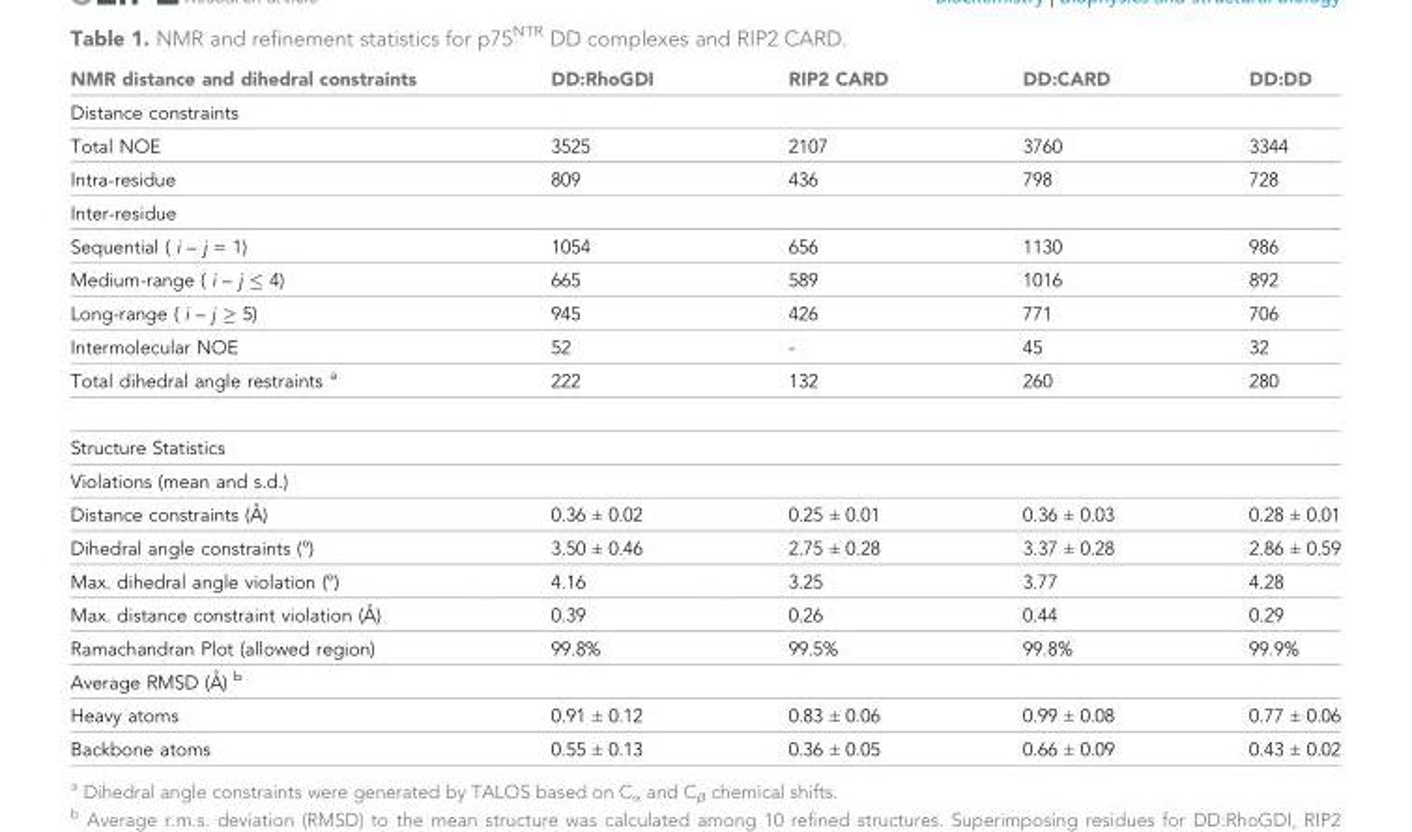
<table><thead><tr><td>NMR distance and dihedral constraints</td><td>DD:RhoGDI</td><td>RIP2 CARD</td><td>DD:CARD</td><td>DD:DD</td></tr></thead><tbody><tr><td colspan="5">Distance constraints</td></tr><tr><td>Total NOE</td><td>3525</td><td>2107</td><td>3760</td><td>3344</td></tr><tr><td>Intra-residue</td><td>809</td><td>436</td><td>798</td><td>728</td></tr><tr><td colspan="5">Inter-residue</td></tr><tr><td>Sequential ( i – j = 1)</td><td>1054</td><td>656</td><td>1130</td><td>986</td></tr><tr><td>Medium-range ( i – j ≤ 4)</td><td>665</td><td>589</td><td>1016</td><td>892</td></tr><tr><td>Long-range ( i – j ≥ 5)</td><td>945</td><td>426</td><td>771</td><td>706</td></tr><tr><td>Intermolecular NOE</td><td>52</td><td>-</td><td>45</td><td>32</td></tr><tr><td>Total dihedral angle restraints <sup>a</sup></td><td>222</td><td>132</td><td>260</td><td>280</td></tr><tr><td colspan="5">Structure Statistics</td></tr><tr><td colspan="5">Violations (mean and s.d.)</td></tr><tr><td>Distance constraints (A˚ )</td><td>0.36 ± 0.02</td><td>0.25 ± 0.01</td><td>0.36 ± 0.03</td><td>0.28 ± 0.01</td></tr><tr><td>Dihedral angle constraints (º)</td><td>3.50 ± 0.46</td><td>2.75 ± 0.28</td><td>3.37 ± 0.28</td><td>2.86 ± 0.59</td></tr><tr><td>Max. dihedral angle violation (º)</td><td>4.16</td><td>3.25</td><td>3.77</td><td>4.28</td></tr><tr><td>Max. distance constraint violation (A˚ )</td><td>0.39</td><td>0.26</td><td>0.44</td><td>0.29</td></tr><tr><td>Ramachandran Plot (allowed region)</td><td>99.8%</td><td>99.5%</td><td>99.8%</td><td>99.9%</td></tr><tr><td colspan="5">Average RMSD (A˚ ) b</td></tr><tr><td>Heavy atoms</td><td>0.91 ± 0.12</td><td>0.83 ± 0.06</td><td>0.99 ± 0.08</td><td>0.77 ± 0.06</td></tr><tr><td>Backbone atoms</td><td>0.55 ± 0.13</td><td>0.36 ± 0.05</td><td>0.66 ± 0.09</td><td>0.43 ± 0.02</td></tr></tbody></table>